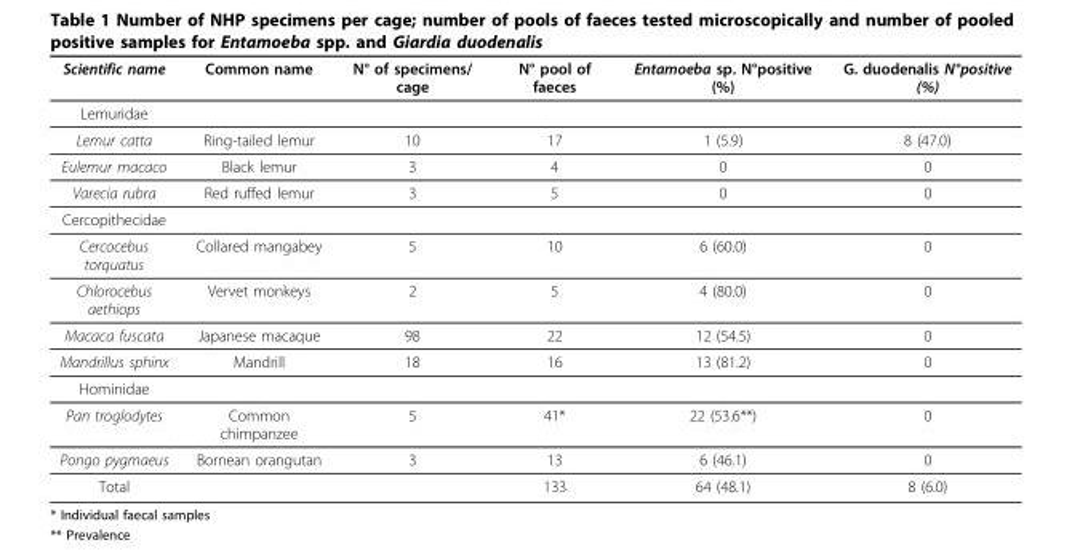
<table><thead><tr><td>Scientific name</td><td>Common name</td><td>N° of specimens/ cage</td><td>N° pool of faeces</td><td>Entamoeba sp. N°positive (%)</td><td>G. duodenalis N°positive (%)</td></tr></thead><tbody><tr><td colspan="6">Lemuridae</td></tr><tr><td>Lemur catta</td><td>Ring-tailed lemur</td><td>10</td><td>17</td><td>1 (5.9)</td><td>8 (47.0)</td></tr><tr><td>Eulemur macaco</td><td>Black lemur</td><td>3</td><td>4</td><td>0</td><td>0</td></tr><tr><td>Varecia rubra</td><td>Red ruffed lemur</td><td>3</td><td>5</td><td>0</td><td>0</td></tr><tr><td colspan="6">Cercopithecidae</td></tr><tr><td>Cercocebus torquatus</td><td>Collared mangabey</td><td>5</td><td>10</td><td>6 (60.0)</td><td>0</td></tr><tr><td>Chlorocebus aethiops</td><td>Vervet monkeys</td><td>2</td><td>5</td><td>4 (80.0)</td><td>0</td></tr><tr><td>Macaca fuscata</td><td>Japanese macaque</td><td>98</td><td>22</td><td>12 (54.5)</td><td>0</td></tr><tr><td>Mandrillus sphinx</td><td>Mandrill</td><td>18</td><td>16</td><td>13 (81.2)</td><td>0</td></tr><tr><td colspan="6">Hominidae</td></tr><tr><td>Pan troglodytes</td><td>Common chimpanzee</td><td>5</td><td>41*</td><td>22 (53.6**)</td><td>0</td></tr><tr><td>Pongo pygmaeus</td><td>Bornean orangutan</td><td>3</td><td>13</td><td>6 (46.1)</td><td>0</td></tr><tr><td>Total</td><td></td><td></td><td>133</td><td>64 (48.1)</td><td>8 (6.0)</td></tr></tbody></table>